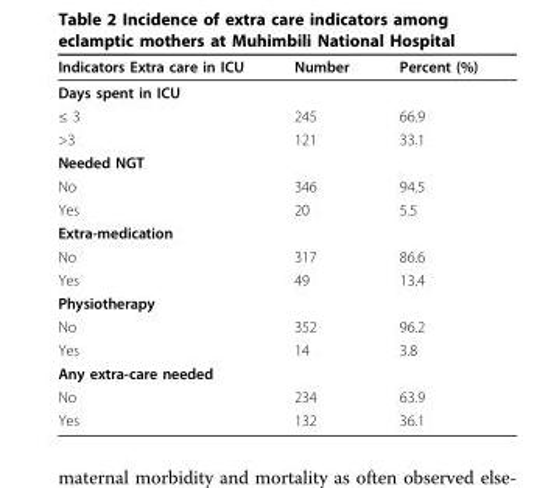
<table><thead><tr><td>Indicators Extra care in ICU</td><td>Number</td><td>Percent (%)</td></tr></thead><tbody><tr><td colspan="3">Days spent in ICU</td></tr><tr><td>≤ 3</td><td>245</td><td>66.9</td></tr><tr><td>&gt;3</td><td>121</td><td>33.1</td></tr><tr><td colspan="3">Needed NGT</td></tr><tr><td>No</td><td>346</td><td>94.5</td></tr><tr><td>Yes</td><td>20</td><td>5.5</td></tr><tr><td colspan="3">Extra-medication</td></tr><tr><td>No</td><td>317</td><td>86.6</td></tr><tr><td>Yes</td><td>49</td><td>13.4</td></tr><tr><td colspan="3">Physiotherapy</td></tr><tr><td>No</td><td>352</td><td>96.2</td></tr><tr><td>Yes</td><td>14</td><td>3.8</td></tr><tr><td colspan="3">Any extra-care needed</td></tr><tr><td>No</td><td>234</td><td>63.9</td></tr><tr><td>Yes</td><td>132</td><td>36.1</td></tr></tbody></table>